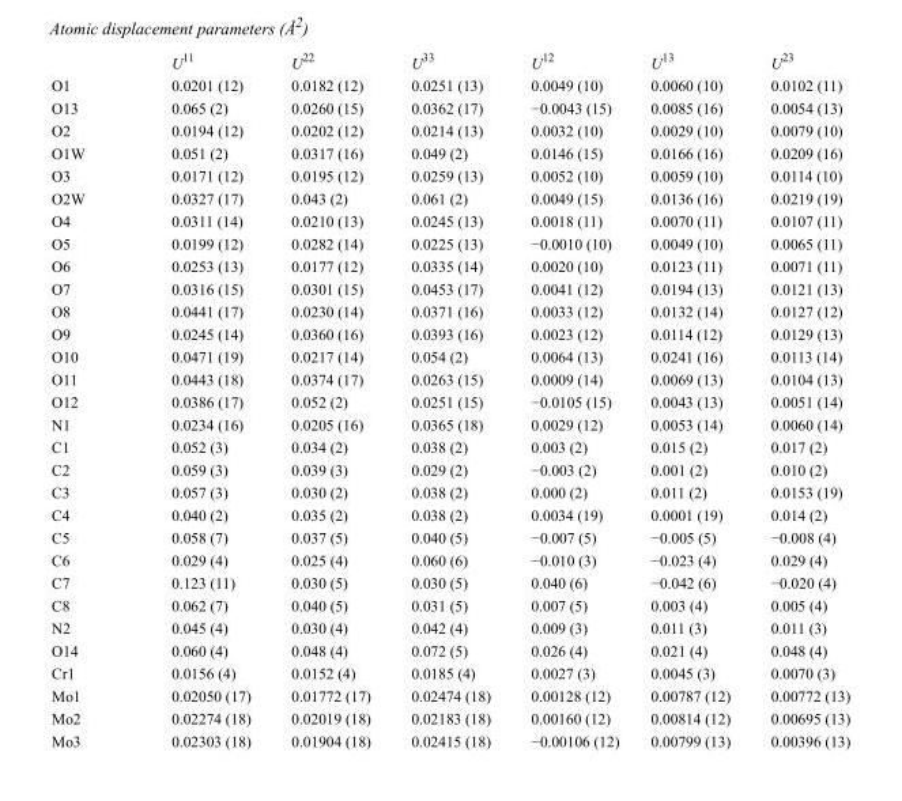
<table><thead><tr><td></td><td>U<sup>11</sup></td><td>U<sup>22</sup></td><td>U<sup>33</sup></td><td>U<sup>12</sup></td><td>U<sup>13</sup></td><td>U<sup>23</sup></td></tr></thead><tbody><tr><td>O1</td><td>0.0201 (12)</td><td>0.0182 (12)</td><td>0.0251 (13)</td><td>0.0049 (10)</td><td>0.0060 (10)</td><td>0.0102 (11)</td></tr><tr><td>O13</td><td>0.065 (2)</td><td>0.0260 (15)</td><td>0.0362 (17)</td><td>−0.0043 (15)</td><td>0.0085 (16)</td><td>0.0054 (13)</td></tr><tr><td>O2</td><td>0.0194 (12)</td><td>0.0202 (12)</td><td>0.0214 (13)</td><td>0.0032 (10)</td><td>0.0029 (10)</td><td>0.0079 (10)</td></tr><tr><td>O1W</td><td>0.051 (2)</td><td>0.0317 (16)</td><td>0.049 (2)</td><td>0.0146 (15)</td><td>0.0166 (16)</td><td>0.0209 (16)</td></tr><tr><td>O3</td><td>0.0171 (12)</td><td>0.0195 (12)</td><td>0.0259 (13)</td><td>0.0052 (10)</td><td>0.0059 (10)</td><td>0.0114 (10)</td></tr><tr><td>O2W</td><td>0.0327 (17)</td><td>0.043 (2)</td><td>0.061 (2)</td><td>0.0049 (15)</td><td>0.0136 (16)</td><td>0.0219 (19)</td></tr><tr><td>O4</td><td>0.0311 (14)</td><td>0.0210 (13)</td><td>0.0245 (13)</td><td>0.0018 (11)</td><td>0.0070 (11)</td><td>0.0107 (11)</td></tr><tr><td>O5</td><td>0.0199 (12)</td><td>0.0282 (14)</td><td>0.0225 (13)</td><td>−0.0010 (10)</td><td>0.0049 (10)</td><td>0.0065 (11)</td></tr><tr><td>O6</td><td>0.0253 (13)</td><td>0.0177 (12)</td><td>0.0335 (14)</td><td>0.0020 (10)</td><td>0.0123 (11)</td><td>0.0071 (11)</td></tr><tr><td>O7</td><td>0.0316 (15)</td><td>0.0301 (15)</td><td>0.0453 (17)</td><td>0.0041 (12)</td><td>0.0194 (13)</td><td>0.0121 (13)</td></tr><tr><td>O8</td><td>0.0441 (17)</td><td>0.0230 (14)</td><td>0.0371 (16)</td><td>0.0033 (12)</td><td>0.0132 (14)</td><td>0.0127 (12)</td></tr><tr><td>O9</td><td>0.0245 (14)</td><td>0.0360 (16)</td><td>0.0393 (16)</td><td>0.0023 (12)</td><td>0.0114 (12)</td><td>0.0129 (13)</td></tr><tr><td>O10</td><td>0.0471 (19)</td><td>0.0217 (14)</td><td>0.054 (2)</td><td>0.0064 (13)</td><td>0.0241 (16)</td><td>0.0113 (14)</td></tr><tr><td>O11</td><td>0.0443 (18)</td><td>0.0374 (17)</td><td>0.0263 (15)</td><td>0.0009 (14)</td><td>0.0069 (13)</td><td>0.0104 (13)</td></tr><tr><td>O12</td><td>0.0386 (17)</td><td>0.052 (2)</td><td>0.0251 (15)</td><td>−0.0105 (15)</td><td>0.0043 (13)</td><td>0.0051 (14)</td></tr><tr><td>N1</td><td>0.0234 (16)</td><td>0.0205 (16)</td><td>0.0365 (18)</td><td>0.0029 (12)</td><td>0.0053 (14)</td><td>0.0060 (14)</td></tr><tr><td>C1</td><td>0.052 (3)</td><td>0.034 (2)</td><td>0.038 (2)</td><td>0.003 (2)</td><td>0.015 (2)</td><td>0.017 (2)</td></tr><tr><td>C2</td><td>0.059 (3)</td><td>0.039 (3)</td><td>0.029 (2)</td><td>−0.003 (2)</td><td>0.001 (2)</td><td>0.010 (2)</td></tr><tr><td>C3</td><td>0.057 (3)</td><td>0.030 (2)</td><td>0.038 (2)</td><td>0.000 (2)</td><td>0.011 (2)</td><td>0.0153 (19)</td></tr><tr><td>C4</td><td>0.040 (2)</td><td>0.035 (2)</td><td>0.038 (2)</td><td>0.0034 (19)</td><td>0.0001 (19)</td><td>0.014 (2)</td></tr><tr><td>C5</td><td>0.058 (7)</td><td>0.037 (5)</td><td>0.040 (5)</td><td>−0.007 (5)</td><td>−0.005 (5)</td><td>−0.008 (4)</td></tr><tr><td>C6</td><td>0.029 (4)</td><td>0.025 (4)</td><td>0.060 (6)</td><td>−0.010 (3)</td><td>−0.023 (4)</td><td>0.029 (4)</td></tr><tr><td>C7</td><td>0.123 (11)</td><td>0.030 (5)</td><td>0.030 (5)</td><td>0.040 (6)</td><td>−0.042 (6)</td><td>−0.020 (4)</td></tr><tr><td>C8</td><td>0.062 (7)</td><td>0.040 (5)</td><td>0.031 (5)</td><td>0.007 (5)</td><td>0.003 (4)</td><td>0.005 (4)</td></tr><tr><td>N2</td><td>0.045 (4)</td><td>0.030 (4)</td><td>0.042 (4)</td><td>0.009 (3)</td><td>0.011 (3)</td><td>0.011 (3)</td></tr><tr><td>O14</td><td>0.060 (4)</td><td>0.048 (4)</td><td>0.072 (5)</td><td>0.026 (4)</td><td>0.021 (4)</td><td>0.048 (4)</td></tr><tr><td>Cr1</td><td>0.0156 (4)</td><td>0.0152 (4)</td><td>0.0185 (4)</td><td>0.0027 (3)</td><td>0.0045 (3)</td><td>0.0070 (3)</td></tr><tr><td>Mo1</td><td>0.02050 (17)</td><td>0.01772 (17)</td><td>0.02474 (18)</td><td>0.00128 (12)</td><td>0.00787 (12)</td><td>0.00772 (13)</td></tr><tr><td>Mo2</td><td>0.02274 (18)</td><td>0.02019 (18)</td><td>0.02183 (18)</td><td>0.00160 (12)</td><td>0.00814 (12)</td><td>0.00695 (13)</td></tr><tr><td>Mo3</td><td>0.02303 (18)</td><td>0.01904 (18)</td><td>0.02415 (18)</td><td>−0.00106 (12)</td><td>0.00799 (13)</td><td>0.00396 (13)</td></tr></tbody></table>